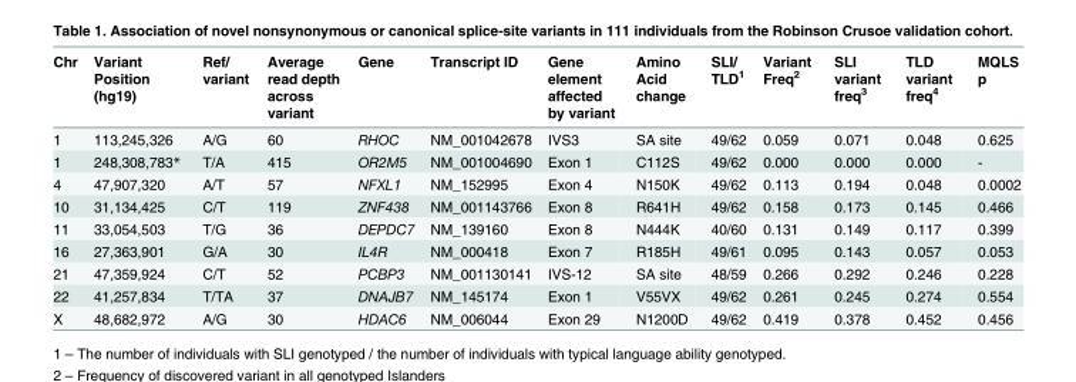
<table><thead><tr><td>Chr</td><td>Variant Position (hg19)</td><td>Ref/ variant</td><td>Average read depth across variant</td><td>Gene</td><td>Transcript ID</td><td>Gene element affected by variant</td><td>Amino Acid change</td><td>SLI/ TLD<sup>1</sup></td><td>Variant Freq<sup>2</sup></td><td>SLI variant freq<sup>3</sup></td><td>TLD variant freq<sup>4</sup></td><td>MQLS p</td></tr></thead><tbody><tr><td>1</td><td>113,245,326</td><td>A/G</td><td>60</td><td>RHOC</td><td>NM_001042678</td><td>IVS3</td><td>SA site</td><td>49/62</td><td>0.059</td><td>0.071</td><td>0.048</td><td>0.625</td></tr><tr><td>1</td><td>248,308,783*</td><td>T/A</td><td>415</td><td>OR2M5</td><td>NM_001004690</td><td>Exon 1</td><td>C112S</td><td>49/62</td><td>0.000</td><td>0.000</td><td>0.000</td><td>-</td></tr><tr><td>4</td><td>47,907,320</td><td>A/T</td><td>57</td><td>NFXL1</td><td>NM_152995</td><td>Exon 4</td><td>N150K</td><td>49/62</td><td>0.113</td><td>0.194</td><td>0.048</td><td>0.0002</td></tr><tr><td>10</td><td>31,134,425</td><td>C/T</td><td>119</td><td>ZNF438</td><td>NM_001143766</td><td>Exon 8</td><td>R641H</td><td>49/62</td><td>0.158</td><td>0.173</td><td>0.145</td><td>0.466</td></tr><tr><td>11</td><td>33,054,503</td><td>T/G</td><td>36</td><td>DEPDC7</td><td>NM_139160</td><td>Exon 8</td><td>N444K</td><td>40/60</td><td>0.131</td><td>0.149</td><td>0.117</td><td>0.399</td></tr><tr><td>16</td><td>27,363,901</td><td>G/A</td><td>30</td><td>IL4R</td><td>NM_000418</td><td>Exon 7</td><td>R185H</td><td>49/61</td><td>0.095</td><td>0.143</td><td>0.057</td><td>0.053</td></tr><tr><td>21</td><td>47,359,924</td><td>C/T</td><td>52</td><td>PCBP3</td><td>NM_001130141</td><td>IVS-12</td><td>SA site</td><td>48/59</td><td>0.266</td><td>0.292</td><td>0.246</td><td>0.228</td></tr><tr><td>22</td><td>41,257,834</td><td>T/TA</td><td>37</td><td>DNAJB7</td><td>NM_145174</td><td>Exon 1</td><td>V55VX</td><td>49/62</td><td>0.261</td><td>0.245</td><td>0.274</td><td>0.554</td></tr><tr><td>X</td><td>48,682,972</td><td>A/G</td><td>30</td><td>HDAC6</td><td>NM_006044</td><td>Exon 29</td><td>N1200D</td><td>49/62</td><td>0.419</td><td>0.378</td><td>0.452</td><td>0.456</td></tr></tbody></table>